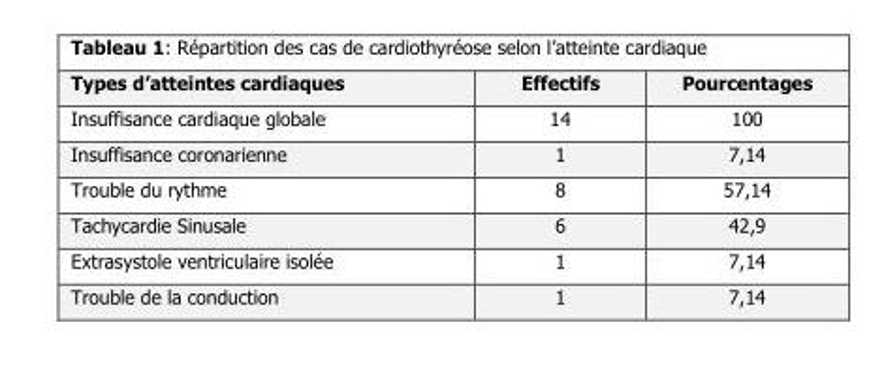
<table><thead><tr><td>Types d’atteintes cardiaques</td><td>Effectifs</td><td>Pourcentages</td></tr></thead><tbody><tr><td>Insuffisance cardiaque globale</td><td>14</td><td>100</td></tr><tr><td>Insuffisance coronarienne</td><td>1</td><td>7,14</td></tr><tr><td>Trouble du rythme</td><td>8</td><td>57,14</td></tr><tr><td>Tachycardie Sinusale</td><td>6</td><td>42,9</td></tr><tr><td>Extrasystole ventriculaire isolée</td><td>1</td><td>7,14</td></tr><tr><td>Trouble de la conduction</td><td>1</td><td>7,14</td></tr></tbody></table>